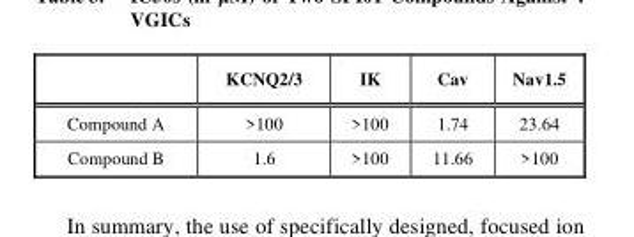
<table><thead><tr><td></td><td>KCNQ2/3</td><td>IK</td><td>Cav</td><td>Nav1.5</td></tr></thead><tbody><tr><td>Compound A</td><td>&gt;100</td><td>&gt;100</td><td>1.74</td><td>23.64</td></tr><tr><td>Compound B</td><td>1.6</td><td>&gt;100</td><td>11.66</td><td>&gt;100</td></tr></tbody></table>